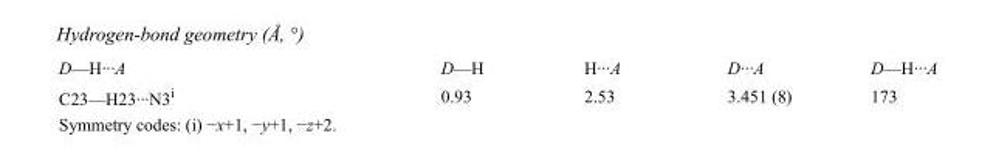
<table><tbody><tr><td>D—H···A</td><td>D—H</td><td>H···A</td><td>D···A</td><td>D—H···A</td></tr><tr><td>C23—H23···N3<sup>i</sup></td><td>0.93</td><td>2.53</td><td>3.451 (8)</td><td>173</td></tr></tbody></table>